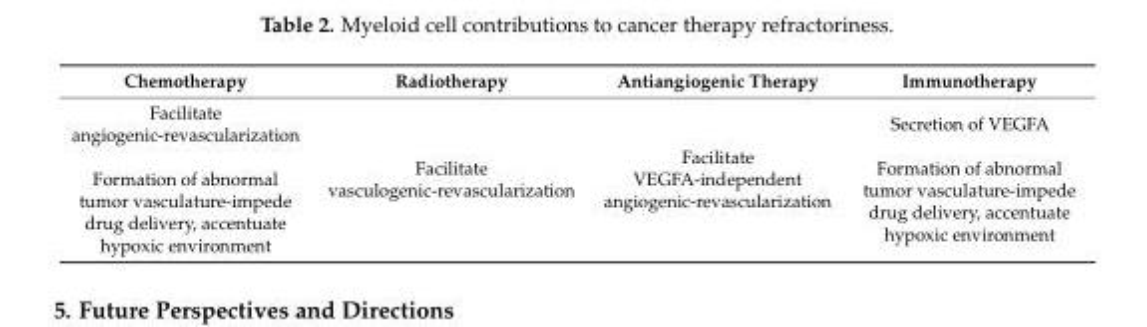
<table><thead><tr><td>Chemotherapy</td><td>Radiotherapy</td><td>Antiangiogenic Therapy</td><td>Immunotherapy</td></tr></thead><tbody><tr><td>Facilitate angiogenic-revascularization Formation of abnormal tumor vasculature-impede drug delivery, accentuate hypoxic environment</td><td>Facilitate vasculogenic-revascularization</td><td>Facilitate VEGFA-independent angiogenic-revascularization</td><td>Secretion of VEGFA Formation of abnormal tumor vasculature-impede drug delivery, accentuate hypoxic environment</td></tr></tbody></table>